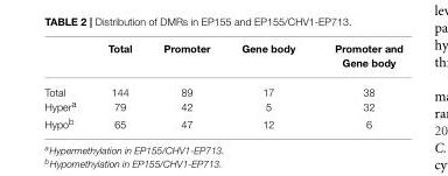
<table><thead><tr><td></td><td>Total</td><td>Promoter</td><td>Gene body</td><td>Promoter and Gene body</td></tr></thead><tbody><tr><td>Total</td><td>144</td><td>89</td><td>17</td><td>38</td></tr><tr><td>Hyper<sup>a</sup></td><td>79</td><td>42</td><td>5</td><td>32</td></tr><tr><td>Hypo<sup>b</sup></td><td>65</td><td>47</td><td>12</td><td>6</td></tr></tbody></table>